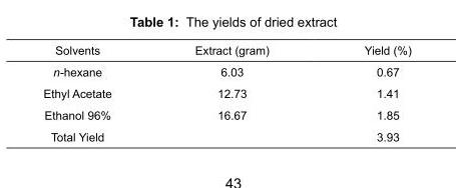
<table><thead><tr><td>Solvents</td><td>Extract (gram)</td><td>Yield (%)</td></tr></thead><tbody><tr><td>n-hexane</td><td>6.03</td><td>0.67</td></tr><tr><td>Ethyl Acetate</td><td>12.73</td><td>1.41</td></tr><tr><td>Ethanol 96%</td><td>16.67</td><td>1.85</td></tr><tr><td>Total Yield</td><td></td><td>3.93</td></tr></tbody></table>